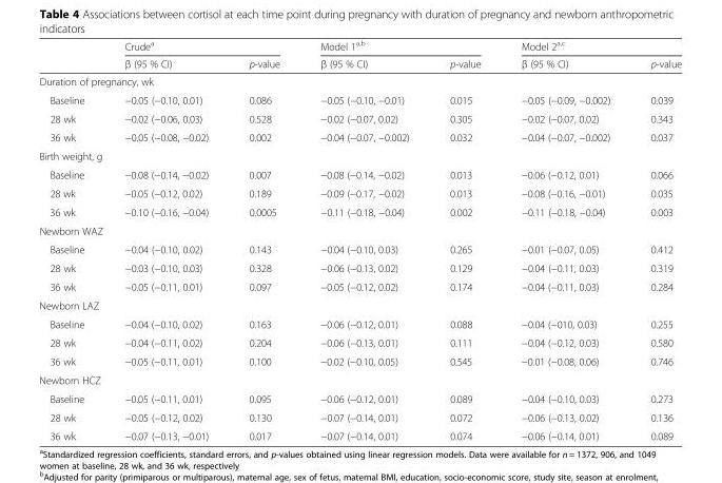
<table><thead><tr><td rowspan="2"></td><td colspan="2">Crude<sup>a</sup></td><td colspan="2">Model 1<sup>a,b</sup></td><td colspan="2">Model 2<sup>a,c</sup></td></tr><tr><td>β (95 % CI)</td><td>p-value</td><td>β (95 % CI)</td><td>p-value</td><td>β (95 % CI)</td><td>p-value</td></tr></thead><tbody><tr><td colspan="7">Duration of pregnancy, wk</td></tr><tr><td>Baseline</td><td>−0.05 (−0.10, 0.01)</td><td>0.086</td><td>−0.05 (−0.10, −0.01)</td><td>0.015</td><td>−0.05 (−0.09, −0.002)</td><td>0.039</td></tr><tr><td>28 wk</td><td>−0.02 (−0.06, 0.03)</td><td>0.528</td><td>−0.02 (−0.07, 0.02)</td><td>0.305</td><td>−0.02 (−0.07, 0.02)</td><td>0.343</td></tr><tr><td>36 wk</td><td>−0.05 (−0.08, −0.02)</td><td>0.002</td><td>−0.04 (−0.07, −0.002)</td><td>0.032</td><td>−0.04 (−0.07, −0.002)</td><td>0.037</td></tr><tr><td colspan="7">Birth weight, g</td></tr><tr><td>Baseline</td><td>−0.08 (−0.14, −0.02)</td><td>0.007</td><td>−0.08 (−0.14, −0.02)</td><td>0.013</td><td>−0.06 (−0.12, 0.01)</td><td>0.066</td></tr><tr><td>28 wk</td><td>−0.05 (−0.12, 0.02)</td><td>0.189</td><td>−0.09 (−0.17, −0.02)</td><td>0.013</td><td>−0.08 (−0.16, −0.01)</td><td>0.035</td></tr><tr><td>36 wk</td><td>−0.10 (−0.16, −0.04)</td><td>0.0005</td><td>−0.11 (−0.18, −0.04)</td><td>0.002</td><td>−0.11 (−0.18, −0.04)</td><td>0.003</td></tr><tr><td colspan="7">Newborn WAZ</td></tr><tr><td>Baseline</td><td>−0.04 (−0.10, 0.02)</td><td>0.143</td><td>−0.04 (−0.10, 0.03)</td><td>0.265</td><td>−0.01 (−0.07, 0.05)</td><td>0.412</td></tr><tr><td>28 wk</td><td>−0.03 (−0.10, 0.03)</td><td>0.328</td><td>−0.06 (−0.13, 0.02)</td><td>0.129</td><td>−0.04 (−0.11, 0.03)</td><td>0.319</td></tr><tr><td>36 wk</td><td>−0.05 (−0.11, 0.01)</td><td>0.097</td><td>−0.05 (−0.12, 0.02)</td><td>0.174</td><td>−0.04 (−0.11, 0.03)</td><td>0.284</td></tr><tr><td colspan="7">Newborn LAZ</td></tr><tr><td>Baseline</td><td>−0.04 (−0.10, 0.02)</td><td>0.163</td><td>−0.06 (−0.12, 0.01)</td><td>0.088</td><td>−0.04 (−010, 0.03)</td><td>0.255</td></tr><tr><td>28 wk</td><td>−0.04 (−0.11, 0.02)</td><td>0.204</td><td>−0.06 (−0.13, 0.01)</td><td>0.111</td><td>−0.04 (−0.12, 0.03)</td><td>0.580</td></tr><tr><td>36 wk</td><td>−0.05 (−0.11, 0.01)</td><td>0.100</td><td>−0.02 (−0.10, 0.05)</td><td>0.545</td><td>−0.01 (−0.08, 0.06)</td><td>0.746</td></tr><tr><td colspan="7">Newborn HCZ</td></tr><tr><td>Baseline</td><td>−0.05 (−0.11, 0.01)</td><td>0.095</td><td>−0.06 (−0.12, 0.01)</td><td>0.089</td><td>−0.04 (−0.10, 0.03)</td><td>0.273</td></tr><tr><td>28 wk</td><td>−0.05 (−0.12, 0.02)</td><td>0.130</td><td>−0.07 (−0.14, 0.01)</td><td>0.072</td><td>−0.06 (−0.13, 0.02)</td><td>0.136</td></tr><tr><td>36 wk</td><td>−0.07 (−0.13, −0.01)</td><td>0.017</td><td>−0.07 (−0.14, 0.01)</td><td>0.074</td><td>−0.06 (−0.14, 0.01)</td><td>0.089</td></tr></tbody></table>